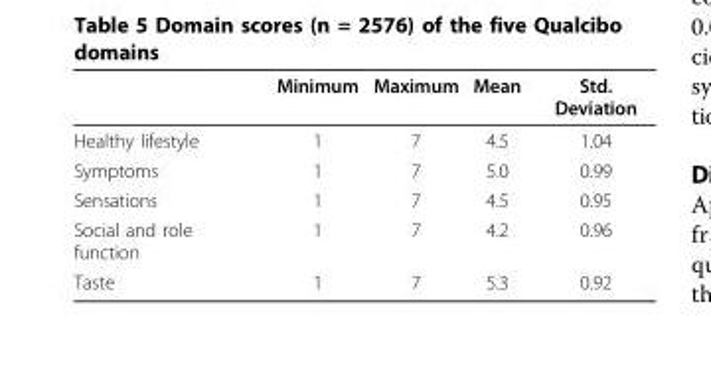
<table><thead><tr><td></td><td>Minimum</td><td>Maximum</td><td>Mean</td><td>Std. Deviation</td></tr></thead><tbody><tr><td>Healthy lifestyle</td><td>1</td><td>7</td><td>4.5</td><td>1.04</td></tr><tr><td>Symptoms</td><td>1</td><td>7</td><td>5.0</td><td>0.99</td></tr><tr><td>Sensations</td><td>1</td><td>7</td><td>4.5</td><td>0.95</td></tr><tr><td>Social and role function</td><td>1</td><td>7</td><td>4.2</td><td>0.96</td></tr><tr><td>Taste</td><td>1</td><td>7</td><td>5.3</td><td>0.92</td></tr></tbody></table>